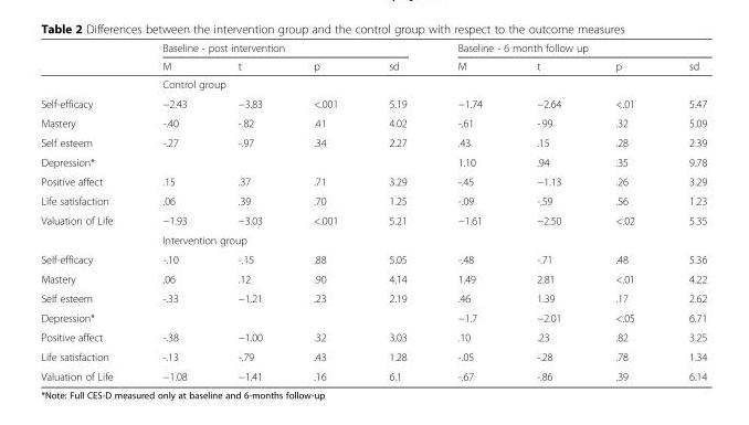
<table><thead><tr><td rowspan="2"></td><td colspan="4">Baseline - post intervention</td><td colspan="4">Baseline - 6 month follow up</td></tr><tr><td>M</td><td>t</td><td>p</td><td>sd</td><td>M</td><td>t</td><td>p</td><td>sd</td></tr></thead><tbody><tr><td></td><td colspan="8">Control group</td></tr><tr><td>Self-efficacy</td><td>−2.43</td><td>−3.83</td><td>&lt;.001</td><td>5.19</td><td>−1.74</td><td>−2.64</td><td>&lt;.01</td><td>5.47</td></tr><tr><td>Mastery</td><td>-.40</td><td>-.82</td><td>.41</td><td>4.02</td><td>-.61</td><td>-.99</td><td>.32</td><td>5.09</td></tr><tr><td>Self esteem</td><td>-.27</td><td>-.97</td><td>.34</td><td>2.27</td><td>.43</td><td>.15</td><td>.28</td><td>2.39</td></tr><tr><td>Depression*</td><td></td><td></td><td></td><td></td><td>1.10</td><td>.94</td><td>.35</td><td>9.78</td></tr><tr><td>Positive affect</td><td>.15</td><td>.37</td><td>.71</td><td>3.29</td><td>-.45</td><td>−1.13</td><td>.26</td><td>3.29</td></tr><tr><td>Life satisfaction</td><td>.06</td><td>.39</td><td>.70</td><td>1.25</td><td>-.09</td><td>-.59</td><td>.56</td><td>1.23</td></tr><tr><td rowspan="2">Valuation of Life</td><td>−1.93</td><td>−3.03</td><td>&lt;.001</td><td>5.21</td><td>−1.61</td><td>−2.50</td><td>&lt;.02</td><td>5.35</td></tr><tr><td colspan="8">Intervention group</td></tr><tr><td>Self-efficacy</td><td>-.10</td><td>-.15</td><td>.88</td><td>5.05</td><td>-.48</td><td>-.71</td><td>.48</td><td>5.36</td></tr><tr><td>Mastery</td><td>.06</td><td>.12</td><td>.90</td><td>4.14</td><td>1.49</td><td>2.81</td><td>&lt;.01</td><td>4.22</td></tr><tr><td>Self esteem</td><td>-.33</td><td>−1.21</td><td>.23</td><td>2.19</td><td>.46</td><td>1.39</td><td>.17</td><td>2.62</td></tr><tr><td>Depression*</td><td></td><td></td><td></td><td></td><td>−1.7</td><td>−2.01</td><td>&lt;.05</td><td>6.71</td></tr><tr><td>Positive affect</td><td>-.38</td><td>−1.00</td><td>.32</td><td>3.03</td><td>.10</td><td>.23</td><td>.82</td><td>3.25</td></tr><tr><td>Life satisfaction</td><td>-.13</td><td>-.79</td><td>.43</td><td>1.28</td><td>-.05</td><td>-.28</td><td>.78</td><td>1.34</td></tr><tr><td>Valuation of Life</td><td>−1.08</td><td>−1.41</td><td>.16</td><td>6.1</td><td>-.67</td><td>-.86</td><td>.39</td><td>6.14</td></tr></tbody></table>